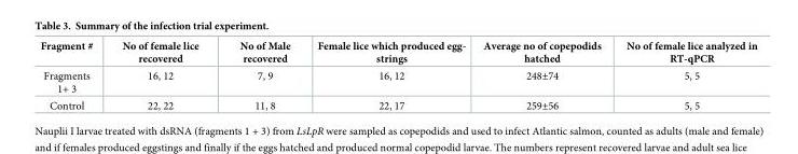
<table><thead><tr><td>Fragment #</td><td>No of female lice recovered</td><td>No of Male recovered</td><td>Female lice which produced egg- strings</td><td>Average no of copepodids hatched</td><td>No of female lice analyzed in RT-qPCR</td></tr></thead><tbody><tr><td>Fragments 1+ 3</td><td>16, 12</td><td>7, 9</td><td>16, 12</td><td>248±74</td><td>5, 5</td></tr><tr><td>Control</td><td>22, 22</td><td>11, 8</td><td>22, 17</td><td>259±56</td><td>5, 5</td></tr></tbody></table>